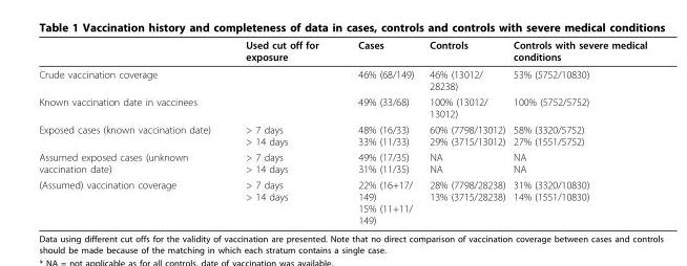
<table><thead><tr><td></td><td>Used cut off for exposure</td><td>Cases</td><td>Controls</td><td>Controls with severe medical conditions</td></tr></thead><tbody><tr><td>Crude vaccination coverage</td><td></td><td>46% (68/149)</td><td>46% (13012/ 28238)</td><td>53% (5752/10830)</td></tr><tr><td>Known vaccination date in vaccinees</td><td></td><td>49% (33/68)</td><td>100% (13012/ 13012)</td><td>100% (5752/5752)</td></tr><tr><td>Exposed cases (known vaccination date)</td><td>&gt; 7 days &gt; 14 days</td><td>48% (16/33) 33% (11/33)</td><td>60% (7798/13012) 29% (3715/13012)</td><td>58% (3320/5752) 27% (1551/5752)</td></tr><tr><td>Assumed exposed cases (unknown vaccination date)</td><td>&gt; 7 days &gt; 14 days</td><td>49% (17/35) 31% (11/35)</td><td>NA NA</td><td>NA NA</td></tr><tr><td>(Assumed) vaccination coverage</td><td>&gt; 7 days &gt; 14 days</td><td>22% (16+17/ 149) 15% (11+11/ 149)</td><td>28% (7798/28238) 13% (3715/28238)</td><td>31% (3320/10830) 14% (1551/10830)</td></tr></tbody></table>